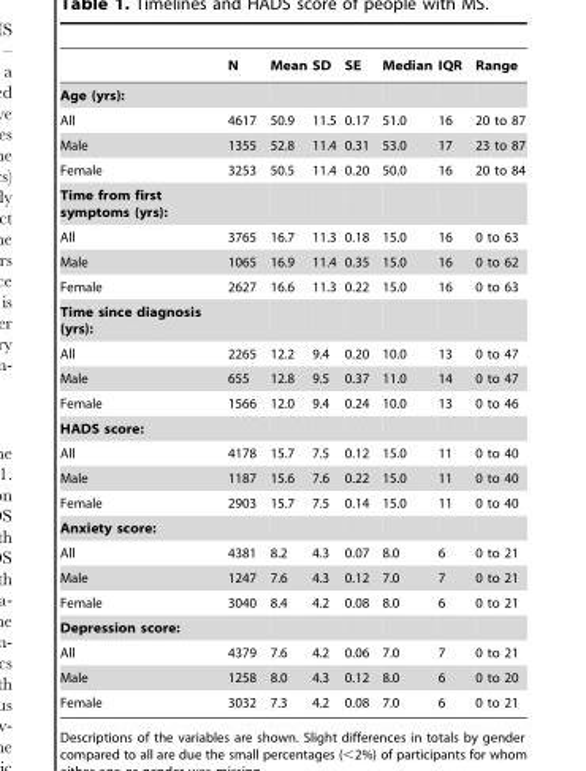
<table><thead><tr><td></td><td>N</td><td>Mean</td><td>SD</td><td>SE</td><td>Median</td><td>IQR</td><td>Range</td></tr></thead><tbody><tr><td colspan="8">Age (yrs):</td></tr><tr><td>All</td><td>4617</td><td>50.9</td><td>11.5</td><td>0.17</td><td>51.0</td><td>16</td><td>20 to 87</td></tr><tr><td>Male</td><td>1355</td><td>52.8</td><td>11.4</td><td>0.31</td><td>53.0</td><td>17</td><td>23 to 87</td></tr><tr><td>Female</td><td>3253</td><td>50.5</td><td>11.4</td><td>0.20</td><td>50.0</td><td>16</td><td>20 to 84</td></tr><tr><td colspan="8">Time from first symptoms (yrs):</td></tr><tr><td>All</td><td>3765</td><td>16.7</td><td>11.3</td><td>0.18</td><td>15.0</td><td>16</td><td>0 to 63</td></tr><tr><td>Male</td><td>1065</td><td>16.9</td><td>11.4</td><td>0.35</td><td>15.0</td><td>16</td><td>0 to 62</td></tr><tr><td>Female</td><td>2627</td><td>16.6</td><td>11.3</td><td>0.22</td><td>15.0</td><td>16</td><td>0 to 63</td></tr><tr><td colspan="8">Time since diagnosis (yrs):</td></tr><tr><td>All</td><td>2265</td><td>12.2</td><td>9.4</td><td>0.20</td><td>10.0</td><td>13</td><td>0 to 47</td></tr><tr><td>Male</td><td>655</td><td>12.8</td><td>9.5</td><td>0.37</td><td>11.0</td><td>14</td><td>0 to 47</td></tr><tr><td>Female</td><td>1566</td><td>12.0</td><td>9.4</td><td>0.24</td><td>10.0</td><td>13</td><td>0 to 46</td></tr><tr><td colspan="8">HADS score:</td></tr><tr><td>All</td><td>4178</td><td>15.7</td><td>7.5</td><td>0.12</td><td>15.0</td><td>11</td><td>0 to 40</td></tr><tr><td>Male</td><td>1187</td><td>15.6</td><td>7.6</td><td>0.22</td><td>15.0</td><td>11</td><td>0 to 40</td></tr><tr><td>Female</td><td>2903</td><td>15.7</td><td>7.5</td><td>0.14</td><td>15.0</td><td>11</td><td>0 to 40</td></tr><tr><td colspan="8">Anxiety score:</td></tr><tr><td>All</td><td>4381</td><td>8.2</td><td>4.3</td><td>0.07</td><td>8.0</td><td>6</td><td>0 to 21</td></tr><tr><td>Male</td><td>1247</td><td>7.6</td><td>4.3</td><td>0.12</td><td>7.0</td><td>7</td><td>0 to 21</td></tr><tr><td>Female</td><td>3040</td><td>8.4</td><td>4.2</td><td>0.08</td><td>8.0</td><td>6</td><td>0 to 21</td></tr><tr><td colspan="8">Depression score:</td></tr><tr><td>All</td><td>4379</td><td>7.6</td><td>4.2</td><td>0.06</td><td>7.0</td><td>7</td><td>0 to 21</td></tr><tr><td>Male</td><td>1258</td><td>8.0</td><td>4.3</td><td>0.12</td><td>8.0</td><td>6</td><td>0 to 20</td></tr><tr><td>Female</td><td>3032</td><td>7.3</td><td>4.2</td><td>0.08</td><td>7.0</td><td>6</td><td>0 to 21</td></tr></tbody></table>